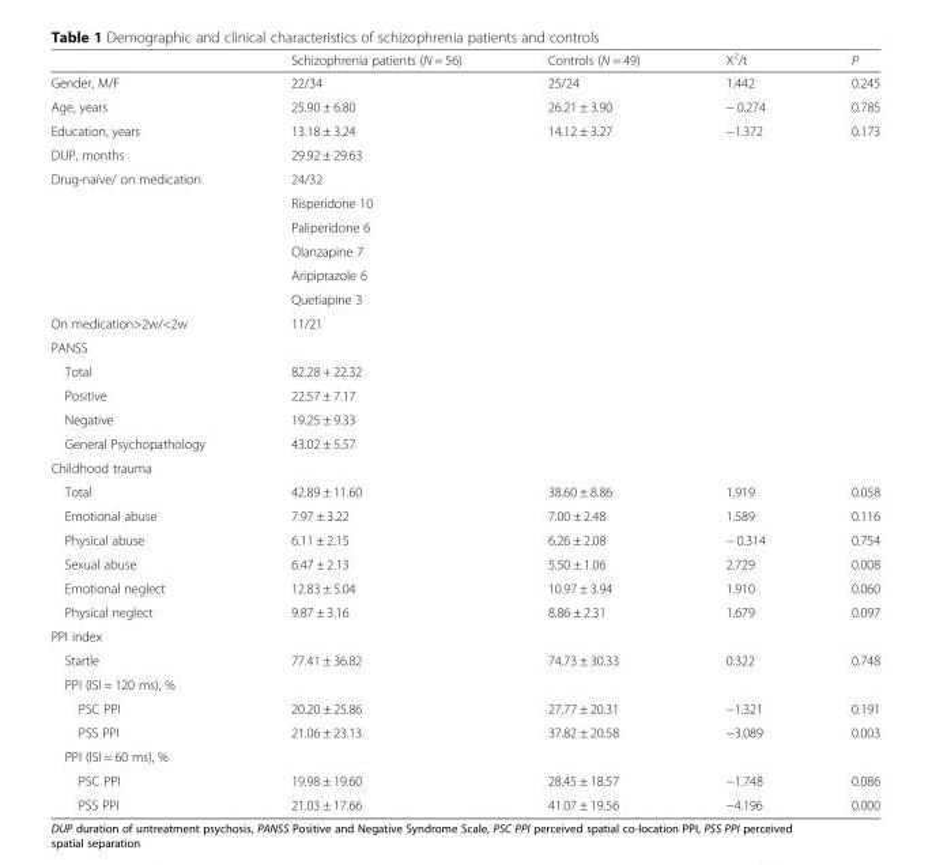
<table><thead><tr><td></td><td>Schizophrenia patients (N = 56)</td><td>Controls (N = 49)</td><td>X<sup>2</sup>/t</td><td>P</td></tr></thead><tbody><tr><td>Gender, M/F</td><td>22/34</td><td>25/24</td><td>1.442</td><td>0.245</td></tr><tr><td>Age, years</td><td>25.90 ± 6.80</td><td>26.21 ± 3.90</td><td>− 0.274</td><td>0.785</td></tr><tr><td>Education, years</td><td>13.18 ± 3.24</td><td>14.12 ± 3.27</td><td>−1.372</td><td>0.173</td></tr><tr><td>DUP, months</td><td colspan="4">29.92 ± 29.63</td></tr><tr><td rowspan="6">Drug-naïve/ on medication</td><td colspan="4">24/32</td></tr><tr><td colspan="4">Risperidone 10</td></tr><tr><td colspan="4">Paliperidone 6</td></tr><tr><td colspan="4">Olanzapine 7</td></tr><tr><td colspan="4">Aripiprazole 6</td></tr><tr><td colspan="4">Quetiapine 3</td></tr><tr><td>On medication&gt;2w/&lt;2w</td><td colspan="4">11/21</td></tr><tr><td colspan="5">PANSS</td></tr><tr><td>Total</td><td colspan="4">82.28 + 22.32</td></tr><tr><td>Positive</td><td colspan="4">22.57 ± 7.17</td></tr><tr><td>Negative</td><td colspan="4">19.25 ± 9.33</td></tr><tr><td>General Psychopathology</td><td colspan="4">43.02 ± 5.57</td></tr><tr><td colspan="5">Childhood trauma</td></tr><tr><td>Total</td><td>42.89 ± 11.60</td><td>38.60 ± 8.86</td><td>1.919</td><td>0.058</td></tr><tr><td>Emotional abuse</td><td>7.97 ± 3.22</td><td>7.00 ± 2.48</td><td>1.589</td><td>0.116</td></tr><tr><td>Physical abuse</td><td>6.11 ± 2.15</td><td>6.26 ± 2.08</td><td>− 0.314</td><td>0.754</td></tr><tr><td>Sexual abuse</td><td>6.47 ± 2.13</td><td>5.50 ± 1.06</td><td>2.729</td><td>0.008</td></tr><tr><td>Emotional neglect</td><td>12.83 ± 5.04</td><td>10.97 ± 3.94</td><td>1.910</td><td>0.060</td></tr><tr><td>Physical neglect</td><td>9.87 ± 3.16</td><td>8.86 ± 2.31</td><td>1.679</td><td>0.097</td></tr><tr><td colspan="5">PPI index</td></tr><tr><td>Startle</td><td>77.41 ± 36.82</td><td>74.73 ± 30.33</td><td>0.322</td><td>0.748</td></tr><tr><td colspan="5">PPI (ISI = 120 ms), %</td></tr><tr><td>PSC PPI</td><td>20.20 ± 25.86</td><td>27.77 ± 20.31</td><td>−1.321</td><td>0.191</td></tr><tr><td>PSS PPI</td><td>21.06 ± 23.13</td><td>37.82 ± 20.58</td><td>−3.089</td><td>0.003</td></tr><tr><td colspan="5">PPI (ISI = 60 ms), %</td></tr><tr><td>PSC PPI</td><td>19.98 ± 19.60</td><td>28.45 ± 18.57</td><td>−1.748</td><td>0.086</td></tr><tr><td>PSS PPI</td><td>21.03 ± 17.66</td><td>41.07 ± 19.56</td><td>−4.196</td><td>0.000</td></tr></tbody></table>